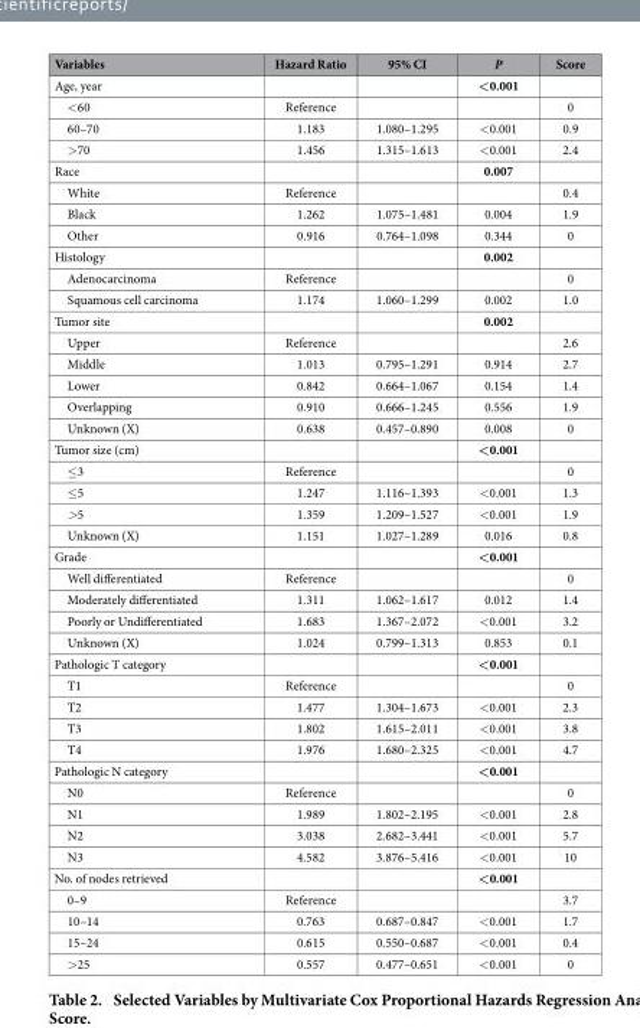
<table><thead><tr><td>Variables</td><td>Hazard Ratio</td><td>95% CI</td><td>P</td><td>Score</td></tr></thead><tbody><tr><td>Age, year</td><td></td><td></td><td>&lt;0.001</td><td></td></tr><tr><td>&lt; 60</td><td>Reference</td><td></td><td></td><td>0</td></tr><tr><td>60–70</td><td>1.183</td><td>1.080–1.295</td><td>&lt; 0.001</td><td>0.9</td></tr><tr><td>&gt; 70</td><td>1.456</td><td>1.315–1.613</td><td>&lt; 0.001</td><td>2.4</td></tr><tr><td>Race</td><td></td><td></td><td>0.007</td><td></td></tr><tr><td>White</td><td>Reference</td><td></td><td></td><td>0.4</td></tr><tr><td>Black</td><td>1.262</td><td>1.075–1.481</td><td>0.004</td><td>1.9</td></tr><tr><td>Other</td><td>0.916</td><td>0.764–1.098</td><td>0.344</td><td>0</td></tr><tr><td>Histology</td><td></td><td></td><td>0.002</td><td></td></tr><tr><td>Adenocarcinoma</td><td>Reference</td><td></td><td></td><td>0</td></tr><tr><td>Squamous cell carcinoma</td><td>1.174</td><td>1.060–1.299</td><td>0.002</td><td>1.0</td></tr><tr><td>Tumor site</td><td></td><td></td><td>0.002</td><td></td></tr><tr><td>Upper</td><td>Reference</td><td></td><td></td><td>2.6</td></tr><tr><td>Middle</td><td>1.013</td><td>0.795–1.291</td><td>0.914</td><td>2.7</td></tr><tr><td>Lower</td><td>0.842</td><td>0.664–1.067</td><td>0.154</td><td>1.4</td></tr><tr><td>Overlapping</td><td>0.910</td><td>0.666–1.245</td><td>0.556</td><td>1.9</td></tr><tr><td>Unknown (X)</td><td>0.638</td><td>0.457–0.890</td><td>0.008</td><td>0</td></tr><tr><td>Tumor size (cm)</td><td></td><td></td><td>&lt;0.001</td><td></td></tr><tr><td>≤ 3</td><td>Reference</td><td></td><td></td><td>0</td></tr><tr><td>≤ 5</td><td>1.247</td><td>1.116–1.393</td><td>&lt; 0.001</td><td>1.3</td></tr><tr><td>&gt;5</td><td>1.359</td><td>1.209–1.527</td><td>&lt; 0.001</td><td>1.9</td></tr><tr><td>Unknown (X)</td><td>1.151</td><td>1.027–1.289</td><td>0.016</td><td>0.8</td></tr><tr><td>Grade</td><td></td><td></td><td>&lt;0.001</td><td></td></tr><tr><td>Well differentiated</td><td>Reference</td><td></td><td></td><td>0</td></tr><tr><td>Moderately differentiated</td><td>1.311</td><td>1.062–1.617</td><td>0.012</td><td>1.4</td></tr><tr><td>Poorly or Undifferentiated</td><td>1.683</td><td>1.367–2.072</td><td>&lt; 0.001</td><td>3.2</td></tr><tr><td>Unknown (X)</td><td>1.024</td><td>0.799–1.313</td><td>0.853</td><td>0.1</td></tr><tr><td>Pathologic T category</td><td></td><td></td><td>&lt;0.001</td><td></td></tr><tr><td>T1</td><td>Reference</td><td></td><td></td><td>0</td></tr><tr><td>T2</td><td>1.477</td><td>1.304–1.673</td><td>&lt; 0.001</td><td>2.3</td></tr><tr><td>T3</td><td>1.802</td><td>1.615–2.011</td><td>&lt; 0.001</td><td>3.8</td></tr><tr><td>T4</td><td>1.976</td><td>1.680–2.325</td><td>&lt; 0.001</td><td>4.7</td></tr><tr><td>Pathologic N category</td><td></td><td></td><td>&lt;0.001</td><td></td></tr><tr><td>N0</td><td>Reference</td><td></td><td></td><td>0</td></tr><tr><td>N1</td><td>1.989</td><td>1.802–2.195</td><td>&lt; 0.001</td><td>2.8</td></tr><tr><td>N2</td><td>3.038</td><td>2.682–3.441</td><td>&lt; 0.001</td><td>5.7</td></tr><tr><td>N3</td><td>4.582</td><td>3.876–5.416</td><td>&lt; 0.001</td><td>10</td></tr><tr><td>No. of nodes retrieved</td><td></td><td></td><td>&lt;0.001</td><td></td></tr><tr><td>0–9</td><td>Reference</td><td></td><td></td><td>3.7</td></tr><tr><td>10–14</td><td>0.763</td><td>0.687–0.847</td><td>&lt; 0.001</td><td>1.7</td></tr><tr><td>15–24</td><td>0.615</td><td>0.550–0.687</td><td>&lt; 0.001</td><td>0.4</td></tr><tr><td>&gt; 25</td><td>0.557</td><td>0.477–0.651</td><td>&lt; 0.001</td><td>0</td></tr></tbody></table>